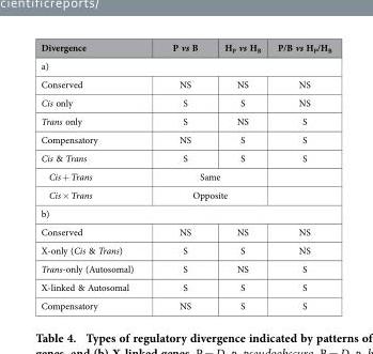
<table><thead><tr><td>Divergence</td><td>P vs B</td><td>H<sub>P</sub> vs H<sub>B</sub></td><td>P/B vs H<sub>P</sub>/H<sub>B</sub></td></tr></thead><tbody><tr><td colspan="4">a)</td></tr><tr><td>Conserved</td><td>NS</td><td>NS</td><td>NS</td></tr><tr><td>Cis only</td><td>S</td><td>S</td><td>NS</td></tr><tr><td>Trans only</td><td>S</td><td>NS</td><td>S</td></tr><tr><td>Compensatory</td><td>NS</td><td>S</td><td>S</td></tr><tr><td>Cis &amp; Trans</td><td>S</td><td>S</td><td>S</td></tr><tr><td>Cis + Trans</td><td colspan="2">Same</td><td></td></tr><tr><td>Cis × Trans</td><td colspan="2">Opposite</td><td></td></tr><tr><td colspan="4">b)</td></tr><tr><td>Conserved</td><td>NS</td><td>NS</td><td>NS</td></tr><tr><td>X-only (Cis &amp; Trans)</td><td>S</td><td>S</td><td>NS</td></tr><tr><td>Trans-only (Autosomal)</td><td>S</td><td>NS</td><td>S</td></tr><tr><td>X-linked &amp; Autosomal</td><td>S</td><td>S</td><td>S</td></tr><tr><td>Compensatory</td><td>NS</td><td>S</td><td>S</td></tr></tbody></table>